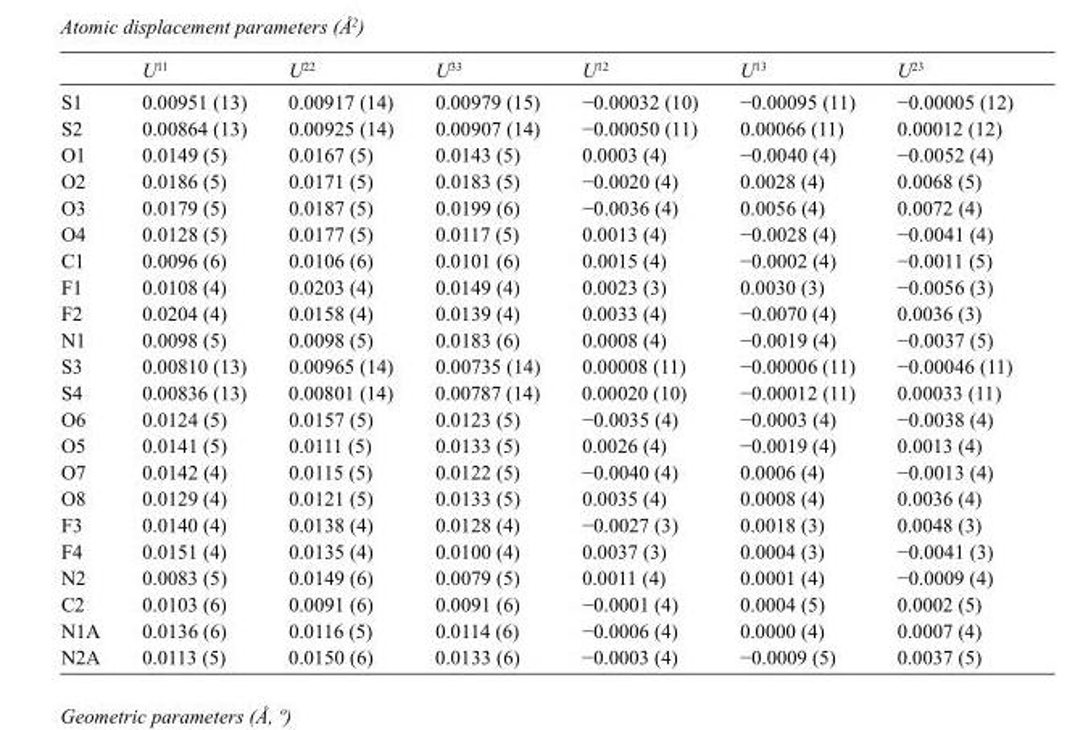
<table><thead><tr><td></td><td>U<sup>11</sup></td><td>U<sup>22</sup></td><td>U<sup>33</sup></td><td>U<sup>12</sup></td><td>U<sup>13</sup></td><td>U<sup>23</sup></td></tr></thead><tbody><tr><td>S1</td><td>0.00951 (13)</td><td>0.00917 (14)</td><td>0.00979 (15)</td><td>−0.00032 (10)</td><td>−0.00095 (11)</td><td>−0.00005 (12)</td></tr><tr><td>S2</td><td>0.00864 (13)</td><td>0.00925 (14)</td><td>0.00907 (14)</td><td>−0.00050 (11)</td><td>0.00066 (11)</td><td>0.00012 (12)</td></tr><tr><td>O1</td><td>0.0149 (5)</td><td>0.0167 (5)</td><td>0.0143 (5)</td><td>0.0003 (4)</td><td>−0.0040 (4)</td><td>−0.0052 (4)</td></tr><tr><td>O2</td><td>0.0186 (5)</td><td>0.0171 (5)</td><td>0.0183 (5)</td><td>−0.0020 (4)</td><td>0.0028 (4)</td><td>0.0068 (5)</td></tr><tr><td>O3</td><td>0.0179 (5)</td><td>0.0187 (5)</td><td>0.0199 (6)</td><td>−0.0036 (4)</td><td>0.0056 (4)</td><td>0.0072 (4)</td></tr><tr><td>O4</td><td>0.0128 (5)</td><td>0.0177 (5)</td><td>0.0117 (5)</td><td>0.0013 (4)</td><td>−0.0028 (4)</td><td>−0.0041 (4)</td></tr><tr><td>C1</td><td>0.0096 (6)</td><td>0.0106 (6)</td><td>0.0101 (6)</td><td>0.0015 (4)</td><td>−0.0002 (4)</td><td>−0.0011 (5)</td></tr><tr><td>F1</td><td>0.0108 (4)</td><td>0.0203 (4)</td><td>0.0149 (4)</td><td>0.0023 (3)</td><td>0.0030 (3)</td><td>−0.0056 (3)</td></tr><tr><td>F2</td><td>0.0204 (4)</td><td>0.0158 (4)</td><td>0.0139 (4)</td><td>0.0033 (4)</td><td>−0.0070 (4)</td><td>0.0036 (3)</td></tr><tr><td>N1</td><td>0.0098 (5)</td><td>0.0098 (5)</td><td>0.0183 (6)</td><td>0.0008 (4)</td><td>−0.0019 (4)</td><td>−0.0037 (5)</td></tr><tr><td>S3</td><td>0.00810 (13)</td><td>0.00965 (14)</td><td>0.00735 (14)</td><td>0.00008 (11)</td><td>−0.00006 (11)</td><td>−0.00046 (11)</td></tr><tr><td>S4</td><td>0.00836 (13)</td><td>0.00801 (14)</td><td>0.00787 (14)</td><td>0.00020 (10)</td><td>−0.00012 (11)</td><td>0.00033 (11)</td></tr><tr><td>O6</td><td>0.0124 (5)</td><td>0.0157 (5)</td><td>0.0123 (5)</td><td>−0.0035 (4)</td><td>−0.0003 (4)</td><td>−0.0038 (4)</td></tr><tr><td>O5</td><td>0.0141 (5)</td><td>0.0111 (5)</td><td>0.0133 (5)</td><td>0.0026 (4)</td><td>−0.0019 (4)</td><td>0.0013 (4)</td></tr><tr><td>O7</td><td>0.0142 (4)</td><td>0.0115 (5)</td><td>0.0122 (5)</td><td>−0.0040 (4)</td><td>0.0006 (4)</td><td>−0.0013 (4)</td></tr><tr><td>O8</td><td>0.0129 (4)</td><td>0.0121 (5)</td><td>0.0133 (5)</td><td>0.0035 (4)</td><td>0.0008 (4)</td><td>0.0036 (4)</td></tr><tr><td>F3</td><td>0.0140 (4)</td><td>0.0138 (4)</td><td>0.0128 (4)</td><td>−0.0027 (3)</td><td>0.0018 (3)</td><td>0.0048 (3)</td></tr><tr><td>F4</td><td>0.0151 (4)</td><td>0.0135 (4)</td><td>0.0100 (4)</td><td>0.0037 (3)</td><td>0.0004 (3)</td><td>−0.0041 (3)</td></tr><tr><td>N2</td><td>0.0083 (5)</td><td>0.0149 (6)</td><td>0.0079 (5)</td><td>0.0011 (4)</td><td>0.0001 (4)</td><td>−0.0009 (4)</td></tr><tr><td>C2</td><td>0.0103 (6)</td><td>0.0091 (6)</td><td>0.0091 (6)</td><td>−0.0001 (4)</td><td>0.0004 (5)</td><td>0.0002 (5)</td></tr><tr><td>N1A</td><td>0.0136 (6)</td><td>0.0116 (5)</td><td>0.0114 (6)</td><td>−0.0006 (4)</td><td>0.0000 (4)</td><td>0.0007 (4)</td></tr><tr><td>N2A</td><td>0.0113 (5)</td><td>0.0150 (6)</td><td>0.0133 (6)</td><td>−0.0003 (4)</td><td>−0.0009 (5)</td><td>0.0037 (5)</td></tr></tbody></table>